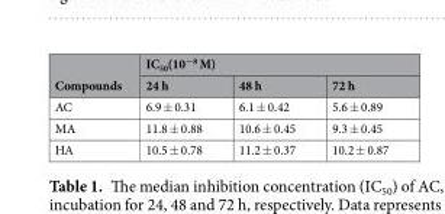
<table><thead><tr><td rowspan="2">Compounds</td><td colspan="3">IC<sub>50</sub>(10<sup>−8</sup> M)</td></tr><tr><td>24 h</td><td>48 h</td><td>72 h</td></tr></thead><tbody><tr><td>AC</td><td>6.9 ± 0.31</td><td>6.1 ± 0.42</td><td>5.6 ± 0.89</td></tr><tr><td>MA</td><td>11.8 ± 0.88</td><td>10.6 ± 0.45</td><td>9.3 ± 0.45</td></tr><tr><td>HA</td><td>10.5 ± 0.78</td><td>11.2 ± 0.37</td><td>10.2 ± 0.87</td></tr></tbody></table>